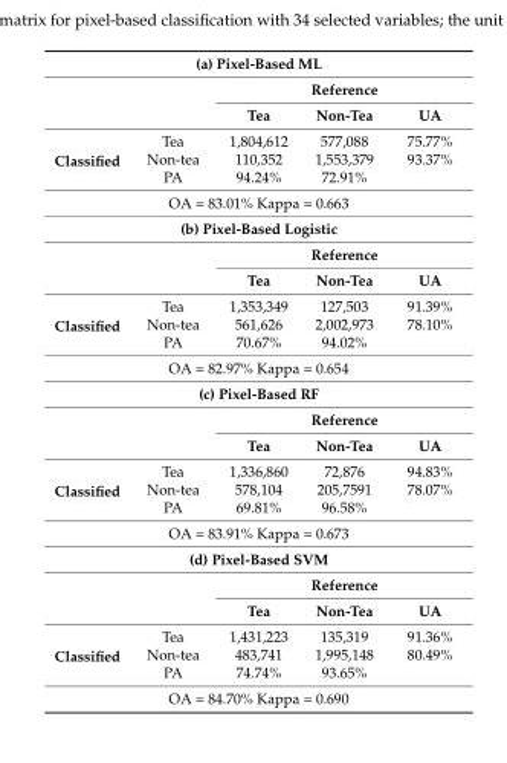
<table><tbody><tr><td colspan="5">(a) Pixel-Based ML</td></tr><tr><td rowspan="2" colspan="2"></td><td colspan="3">Reference</td></tr><tr><td>Tea</td><td>Non-Tea</td><td>UA</td></tr><tr><td rowspan="3">Classified</td><td>Tea</td><td>1,804,612</td><td>577,088</td><td>75.77%</td></tr><tr><td>Non-tea</td><td>110,352</td><td>1,553,379</td><td>93.37%</td></tr><tr><td>PA</td><td>94.24%</td><td>72.91%</td><td></td></tr><tr><td colspan="5">OA = 83.01% Kappa = 0.663</td></tr><tr><td colspan="5">(b) Pixel-Based Logistic</td></tr><tr><td rowspan="2" colspan="2"></td><td colspan="3">Reference</td></tr><tr><td>Tea</td><td>Non-Tea</td><td>UA</td></tr><tr><td rowspan="3">Classified</td><td>Tea</td><td>1,353,349</td><td>127,503</td><td>91.39%</td></tr><tr><td>Non-tea</td><td>561,626</td><td>2,002,973</td><td>78.10%</td></tr><tr><td>PA</td><td>70.67%</td><td>94.02%</td><td></td></tr><tr><td colspan="5">OA = 82.97% Kappa = 0.654</td></tr><tr><td colspan="5">(c) Pixel-Based RF</td></tr><tr><td rowspan="2" colspan="2"></td><td colspan="3">Reference</td></tr><tr><td>Tea</td><td>Non-Tea</td><td>UA</td></tr><tr><td rowspan="3">Classified</td><td>Tea</td><td>1,336,860</td><td>72,876</td><td>94.83%</td></tr><tr><td>Non-tea</td><td>578,104</td><td>205,7591</td><td>78.07%</td></tr><tr><td>PA</td><td>69.81%</td><td>96.58%</td><td></td></tr><tr><td colspan="5">OA = 83.91% Kappa = 0.673</td></tr><tr><td colspan="5">(d) Pixel-Based SVM</td></tr><tr><td rowspan="2" colspan="2"></td><td colspan="3">Reference</td></tr><tr><td>Tea</td><td>Non-Tea</td><td>UA</td></tr><tr><td rowspan="3">Classified</td><td>Tea</td><td>1,431,223</td><td>135,319</td><td>91.36%</td></tr><tr><td>Non-tea</td><td>483,741</td><td>1,995,148</td><td>80.49%</td></tr><tr><td>PA</td><td>74.74%</td><td>93.65%</td><td></td></tr><tr><td colspan="5">OA = 84.70% Kappa = 0.690</td></tr></tbody></table>